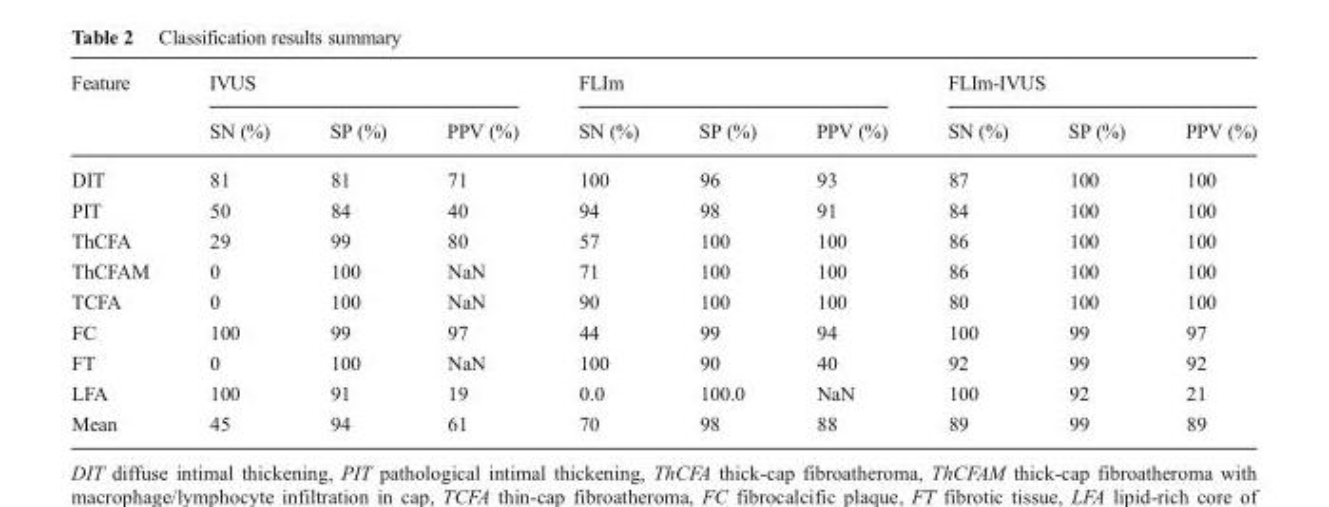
<table><thead><tr><td rowspan="2">Feature</td><td colspan="3">IVUS</td><td colspan="3">FLIm</td><td colspan="3">FLIm-IVUS</td></tr><tr><td>SN (%)</td><td>SP (%)</td><td>PPV (%)</td><td>SN (%)</td><td>SP (%)</td><td>PPV (%)</td><td>SN (%)</td><td>SP (%)</td><td>PPV (%)</td></tr></thead><tbody><tr><td>DIT</td><td>81</td><td>81</td><td>71</td><td>100</td><td>96</td><td>93</td><td>87</td><td>100</td><td>100</td></tr><tr><td>PIT</td><td>50</td><td>84</td><td>40</td><td>94</td><td>98</td><td>91</td><td>84</td><td>100</td><td>100</td></tr><tr><td>ThCFA</td><td>29</td><td>99</td><td>80</td><td>57</td><td>100</td><td>100</td><td>86</td><td>100</td><td>100</td></tr><tr><td>ThCFAM</td><td>0</td><td>100</td><td>NaN</td><td>71</td><td>100</td><td>100</td><td>86</td><td>100</td><td>100</td></tr><tr><td>TCFA</td><td>0</td><td>100</td><td>NaN</td><td>90</td><td>100</td><td>100</td><td>80</td><td>100</td><td>100</td></tr><tr><td>FC</td><td>100</td><td>99</td><td>97</td><td>44</td><td>99</td><td>94</td><td>100</td><td>99</td><td>97</td></tr><tr><td>FT</td><td>0</td><td>100</td><td>NaN</td><td>100</td><td>90</td><td>40</td><td>92</td><td>99</td><td>92</td></tr><tr><td>LFA</td><td>100</td><td>91</td><td>19</td><td>0.0</td><td>100.0</td><td>NaN</td><td>100</td><td>92</td><td>21</td></tr><tr><td>Mean</td><td>45</td><td>94</td><td>61</td><td>70</td><td>98</td><td>88</td><td>89</td><td>99</td><td>89</td></tr></tbody></table>